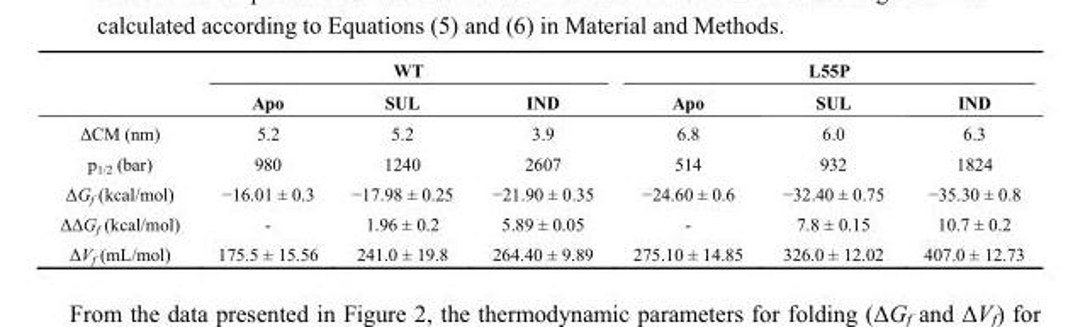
<table><thead><tr><td rowspan="2"></td><td colspan="3">WT</td><td colspan="3">L55P</td></tr><tr><td>Apo</td><td>SUL</td><td>IND</td><td>Apo</td><td>SUL</td><td>IND</td></tr></thead><tbody><tr><td>ΔCM (nm)</td><td>5.2</td><td>5.2</td><td>3.9</td><td>6.8</td><td>6.0</td><td>6.3</td></tr><tr><td>p<sub>1/2</sub> (bar)</td><td>980</td><td>1240</td><td>2607</td><td>514</td><td>932</td><td>1824</td></tr><tr><td>ΔG<sub>f</sub> (kcal/mol)</td><td>−16.01 ± 0.3</td><td>−17.98 ± 0.25</td><td>−21.90 ± 0.35</td><td>−24.60 ± 0.6</td><td>−32.40 ± 0.75</td><td>−35.30 ± 0.8</td></tr><tr><td>ΔΔG<sub>f</sub> (kcal/mol)</td><td>-</td><td>1.96 ± 0.2</td><td>5.89 ± 0.05</td><td>-</td><td>7.8 ± 0.15</td><td>10.7 ± 0.2</td></tr><tr><td>ΔV<sub>f</sub> (mL/mol)</td><td>175.5 ± 15.56</td><td>241.0 ± 19.8</td><td>264.40 ± 9.89</td><td>275.10 ± 14.85</td><td>326.0 ± 12.02</td><td>407.0 ± 12.73</td></tr></tbody></table>